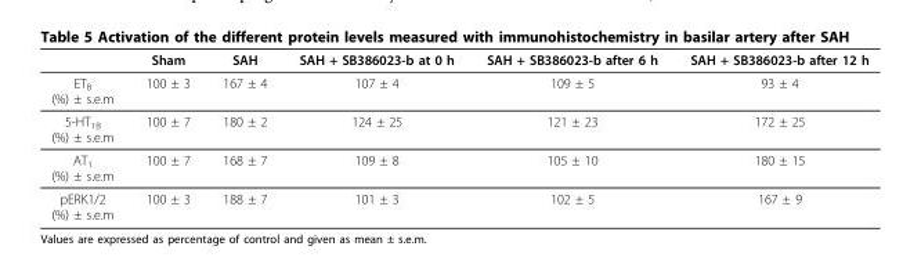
<table><thead><tr><td></td><td>Sham</td><td>SAH</td><td>SAH + SB386023-b at 0 h</td><td>SAH + SB386023-b after 6 h</td><td>SAH + SB386023-b after 12 h</td></tr></thead><tbody><tr><td>ET<sub>B</sub> (%) ± s.e.m</td><td>100 ± 3</td><td>167 ± 4</td><td>107 ± 4</td><td>109 ± 5</td><td>93 ± 4</td></tr><tr><td>5-HT<sub>1B</sub> (%) ± s.e.m</td><td>100 ± 7</td><td>180 ± 2</td><td>124 ± 25</td><td>121 ± 23</td><td>172 ± 25</td></tr><tr><td>AT<sub>1</sub> (%) ± s.e.m</td><td>100 ± 7</td><td>168 ± 7</td><td>109 ± 8</td><td>105 ± 10</td><td>180 ± 15</td></tr><tr><td>pERK1/2 (%) ± s.e.m</td><td>100 ± 3</td><td>188 ± 7</td><td>101 ± 3</td><td>102 ± 5</td><td>167 ± 9</td></tr></tbody></table>